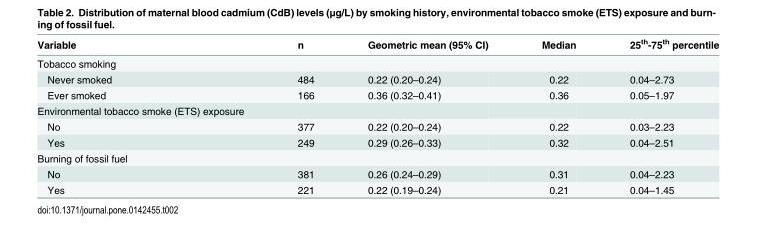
<table><thead><tr><td>Variable</td><td>n</td><td>Geometric mean (95% CI)</td><td>Median</td><td>25<sup>th</sup>-75<sup>th</sup> percentile</td></tr></thead><tbody><tr><td colspan="5">Tobacco smoking</td></tr><tr><td>Never smoked</td><td>484</td><td>0.22 (0.20–0.24)</td><td>0.22</td><td>0.04–2.73</td></tr><tr><td>Ever smoked</td><td>166</td><td>0.36 (0.32–0.41)</td><td>0.36</td><td>0.05–1.97</td></tr><tr><td colspan="5">Environmental tobacco smoke (ETS) exposure</td></tr><tr><td>No</td><td>377</td><td>0.22 (0.20–0.24)</td><td>0.22</td><td>0.03–2.23</td></tr><tr><td>Yes</td><td>249</td><td>0.29 (0.26–0.33)</td><td>0.32</td><td>0.04–2.51</td></tr><tr><td colspan="5">Burning of fossil fuel</td></tr><tr><td>No</td><td>381</td><td>0.26 (0.24–0.29)</td><td>0.31</td><td>0.04–2.23</td></tr><tr><td>Yes</td><td>221</td><td>0.22 (0.19–0.24)</td><td>0.21</td><td>0.04–1.45</td></tr></tbody></table>